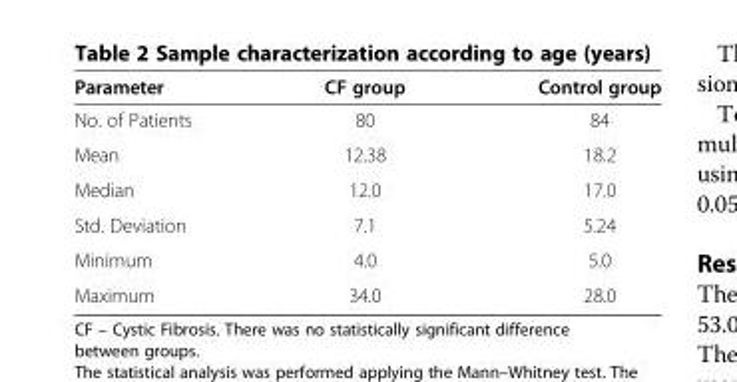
<table><thead><tr><td>Parameter</td><td>CF group</td><td>Control group</td></tr></thead><tbody><tr><td>No. of Patients</td><td>80</td><td>84</td></tr><tr><td>Mean</td><td>12.38</td><td>18.2</td></tr><tr><td>Median</td><td>12.0</td><td>17.0</td></tr><tr><td>Std. Deviation</td><td>7.1</td><td>5.24</td></tr><tr><td>Minimum</td><td>4.0</td><td>5.0</td></tr><tr><td>Maximum</td><td>34.0</td><td>28.0</td></tr></tbody></table>